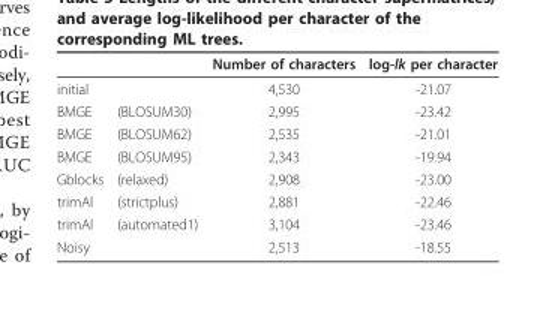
<table><thead><tr><td></td><td></td><td>Number of characters</td><td>log-lk per character</td></tr></thead><tbody><tr><td>initial</td><td></td><td>4,530</td><td>-21.07</td></tr><tr><td>BMGE</td><td>(BLOSUM30)</td><td>2,995</td><td>-23.42</td></tr><tr><td>BMGE</td><td>(BLOSUM62)</td><td>2,535</td><td>-21.01</td></tr><tr><td>BMGE</td><td>(BLOSUM95)</td><td>2,343</td><td>-19.94</td></tr><tr><td>Gblocks</td><td>(relaxed)</td><td>2,908</td><td>-23.00</td></tr><tr><td>trimAl</td><td>(strictplus)</td><td>2,881</td><td>-22.46</td></tr><tr><td>trimAl</td><td>(automated1)</td><td>3,104</td><td>-23.46</td></tr><tr><td>Noisy</td><td></td><td>2,513</td><td>-18.55</td></tr></tbody></table>